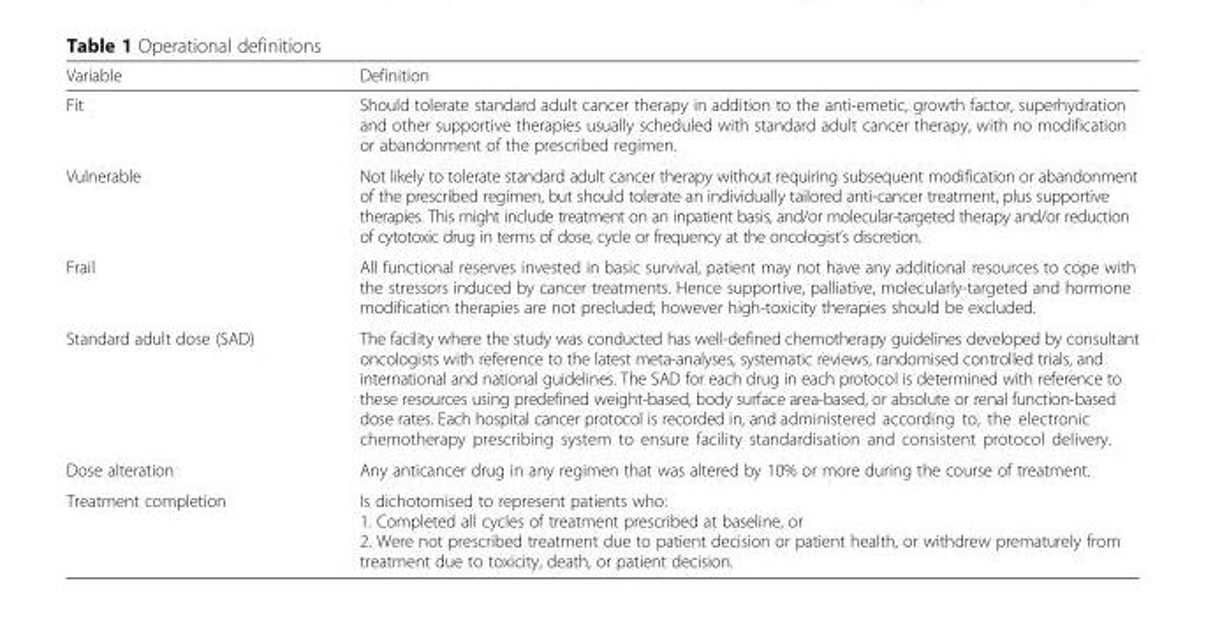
<table><thead><tr><td>Variable</td><td>Definition</td></tr></thead><tbody><tr><td>Fit</td><td>Should tolerate standard adult cancer therapy in addition to the anti-emetic, growth factor, superhydration and other supportive therapies usually scheduled with standard adult cancer therapy, with no modification or abandonment of the prescribed regimen.</td></tr><tr><td>Vulnerable</td><td>Not likely to tolerate standard adult cancer therapy without requiring subsequent modification or abandonment of the prescribed regimen, but should tolerate an individually tailored anti-cancer treatment, plus supportive therapies. This might include treatment on an inpatient basis, and/or molecular-targeted therapy and/or reduction of cytotoxic drug in terms of dose, cycle or frequency at the oncologist’s discretion.</td></tr><tr><td>Frail</td><td>All functional reserves invested in basic survival, patient may not have any additional resources to cope with the stressors induced by cancer treatments. Hence supportive, palliative, molecularly-targeted and hormone modification therapies are not precluded; however high-toxicity therapies should be excluded.</td></tr><tr><td>Standard adult dose (SAD)</td><td>The facility where the study was conducted has well-defined chemotherapy guidelines developed by consultant oncologists with reference to the latest meta-analyses, systematic reviews, randomised controlled trials, and international and national guidelines. The SAD for each drug in each protocol is determined with reference to these resources using predefined weight-based, body surface area-based, or absolute or renal function-based dose rates. Each hospital cancer protocol is recorded in, and administered according to, the electronic chemotherapy prescribing system to ensure facility standardisation and consistent protocol delivery.</td></tr><tr><td>Dose alteration</td><td>Any anticancer drug in any regimen that was altered by 10% or more during the course of treatment.</td></tr><tr><td>Treatment completion</td><td>Is dichotomised to represent patients who: 1. Completed all cycles of treatment prescribed at baseline, or 2. Were not prescribed treatment due to patient decision or patient health, or withdrew prematurely from treatment due to toxicity, death, or patient decision.</td></tr></tbody></table>